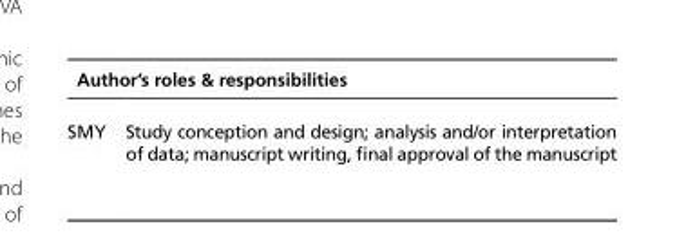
<table><thead><tr><td colspan="2">Author’s roles &amp; responsibilities</td></tr><tr><td>SMY</td><td>Study conception and design; analysis and/or interpretation of data; manuscript writing, final approval of the manuscript</td></tr></thead><tbody></tbody></table>